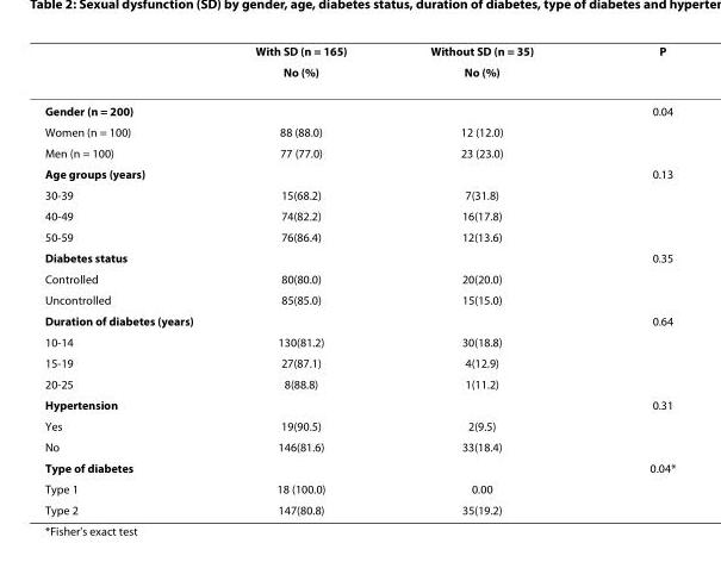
<table><thead><tr><td rowspan="2"></td><td rowspan="2">With SD (n = 165) No (%)</td><td rowspan="2">Without SD (n = 35) No (%)</td><td rowspan="2">P</td></tr><tr></tr></thead><tbody><tr><td>Gender (n = 200)</td><td></td><td></td><td>0.04</td></tr><tr><td>Women (n = 100)</td><td>88 (88.0)</td><td>12 (12.0)</td><td></td></tr><tr><td>Men (n = 100)</td><td>77 (77.0)</td><td>23 (23.0)</td><td></td></tr><tr><td>Age groups (years)</td><td></td><td></td><td>0.13</td></tr><tr><td>30-39</td><td>15(68.2)</td><td>7(31.8)</td><td></td></tr><tr><td>40-49</td><td>74(82.2)</td><td>16(17.8)</td><td></td></tr><tr><td>50-59</td><td>76(86.4)</td><td>12(13.6)</td><td></td></tr><tr><td>Diabetes status</td><td></td><td></td><td>0.35</td></tr><tr><td>Controlled</td><td>80(80.0)</td><td>20(20.0)</td><td></td></tr><tr><td>Uncontrolled</td><td>85(85.0)</td><td>15(15.0)</td><td></td></tr><tr><td>Duration of diabetes (years)</td><td></td><td></td><td>0.64</td></tr><tr><td>10-14</td><td>130(81.2)</td><td>30(18.8)</td><td></td></tr><tr><td>15-19</td><td>27(87.1)</td><td>4(12.9)</td><td></td></tr><tr><td>20-25</td><td>8(88.8)</td><td>1(11.2)</td><td></td></tr><tr><td>Hypertension</td><td></td><td></td><td>0.31</td></tr><tr><td>Yes</td><td>19(90.5)</td><td>2(9.5)</td><td></td></tr><tr><td>No</td><td>146(81.6)</td><td>33(18.4)</td><td></td></tr><tr><td>Type of diabetes</td><td></td><td></td><td>0.04*</td></tr><tr><td>Type 1</td><td>18 (100.0)</td><td>0.00</td><td></td></tr><tr><td>Type 2</td><td>147(80.8)</td><td>35(19.2)</td><td></td></tr></tbody></table>